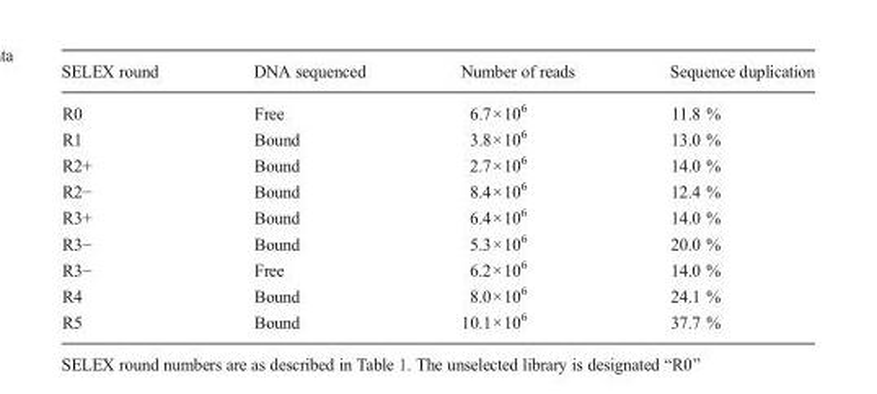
<table><thead><tr><td>SELEX round</td><td>DNA sequenced</td><td>Number of reads</td><td>Sequence duplication</td></tr></thead><tbody><tr><td>R0</td><td>Free</td><td>6.7×10<sup>6</sup></td><td>11.8 %</td></tr><tr><td>R1</td><td>Bound</td><td>3.8×10<sup>6</sup></td><td>13.0 %</td></tr><tr><td>R2+</td><td>Bound</td><td>2.7×10<sup>6</sup></td><td>14.0 %</td></tr><tr><td>R2−</td><td>Bound</td><td>8.4×10<sup>6</sup></td><td>12.4 %</td></tr><tr><td>R3+</td><td>Bound</td><td>6.4×10<sup>6</sup></td><td>14.0 %</td></tr><tr><td>R3−</td><td>Bound</td><td>5.3×10<sup>6</sup></td><td>20.0 %</td></tr><tr><td>R3−</td><td>Free</td><td>6.2×10<sup>6</sup></td><td>14.0 %</td></tr><tr><td>R4</td><td>Bound</td><td>8.0×10<sup>6</sup></td><td>24.1 %</td></tr><tr><td>R5</td><td>Bound</td><td>10.1×10<sup>6</sup></td><td>37.7 %</td></tr></tbody></table>